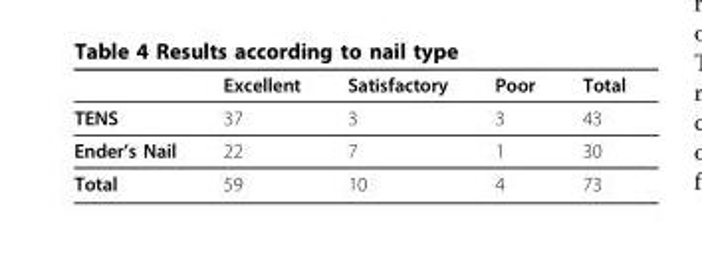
<table><thead><tr><td></td><td>Excellent</td><td>Satisfactory</td><td>Poor</td><td>Total</td></tr></thead><tbody><tr><td>TENS</td><td>37</td><td>3</td><td>3</td><td>43</td></tr><tr><td>Ender’s Nail</td><td>22</td><td>7</td><td>1</td><td>30</td></tr><tr><td>Total</td><td>59</td><td>10</td><td>4</td><td>73</td></tr></tbody></table>